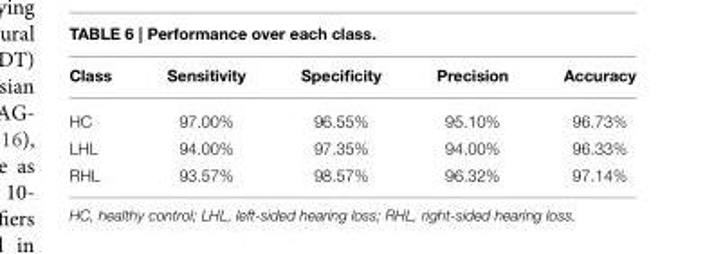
<table><thead><tr><td>Class</td><td>Sensitivity</td><td>Specificity</td><td>Precision</td><td>Accuracy</td></tr></thead><tbody><tr><td>HC</td><td>97.00%</td><td>96.55%</td><td>95.10%</td><td>96.73%</td></tr><tr><td>LHL</td><td>94.00%</td><td>97.35%</td><td>94.00%</td><td>96.33%</td></tr><tr><td>RHL</td><td>93.57%</td><td>98.57%</td><td>96.32%</td><td>97.14%</td></tr></tbody></table>